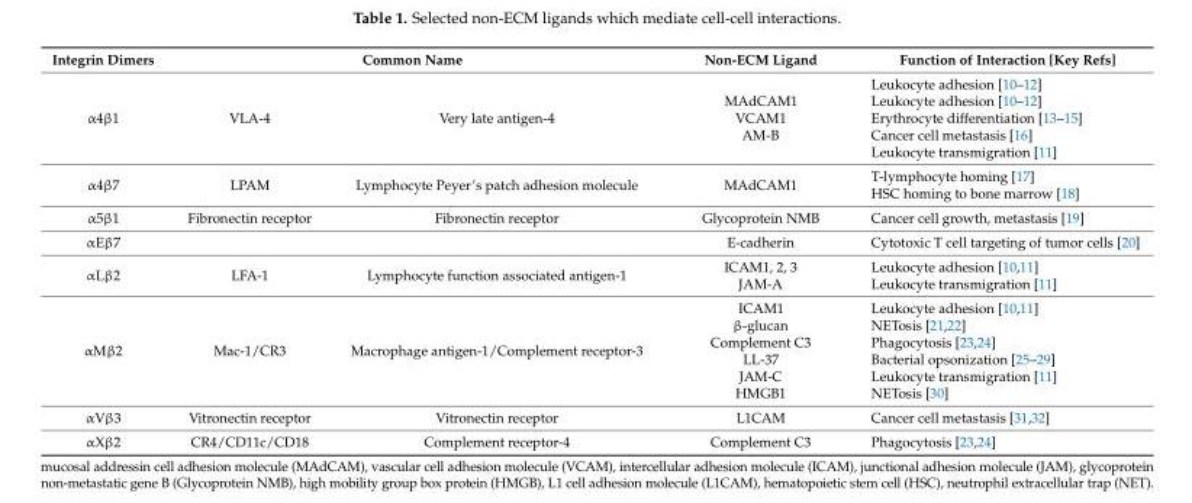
<table><thead><tr><td rowspan="2">Integrin Dimers α4β1</td><td colspan="2">Common Name</td><td rowspan="2">Non-ECM Ligand MAdCAM1 VCAM1 AM-B</td><td rowspan="2">Function of Interaction [Key Refs] Leukocyte adhesion [10–12] Leukocyte adhesion [10–12] Erythrocyte differentiation [13–15] Cancer cell metastasis [16] Leukocyte transmigration [11]</td></tr><tr><td>VLA-4</td><td>Very late antigen-4</td></tr></thead><tbody><tr><td>α4β7</td><td>LPAM</td><td>Lymphocyte Peyer’s patch adhesion molecule</td><td>MAdCAM1</td><td>T-lymphocyte homing [17] HSC homing to bone marrow [18]</td></tr><tr><td>α5β1</td><td>Fibronectin receptor</td><td>Fibronectin receptor</td><td>Glycoprotein NMB</td><td>Cancer cell growth, metastasis [19]</td></tr><tr><td>αEβ7</td><td></td><td></td><td>E-cadherin</td><td>Cytotoxic T cell targeting of tumor cells [20]</td></tr><tr><td>αLβ2</td><td>LFA-1</td><td>Lymphocyte function associated antigen-1</td><td>ICAM1, 2, 3 JAM-A</td><td>Leukocyte adhesion [10,11] Leukocyte transmigration [11]</td></tr><tr><td>αMβ2</td><td>Mac-1/CR3</td><td>Macrophage antigen-1/Complement receptor-3</td><td>ICAM1 β-glucan Complement C3 LL-37 JAM-C HMGB1</td><td>Leukocyte adhesion [10,11] NETosis [21,22] Phagocytosis [23,24] Bacterial opsonization [25–29] Leukocyte transmigration [11] NETosis [30]</td></tr><tr><td>αVβ3</td><td>Vitronectin receptor</td><td>Vitronectin receptor</td><td>L1CAM</td><td>Cancer cell metastasis [31,32]</td></tr><tr><td>αXβ2</td><td>CR4/CD11c/CD18</td><td>Complement receptor-4</td><td>Complement C3</td><td>Phagocytosis [23,24]</td></tr></tbody></table>